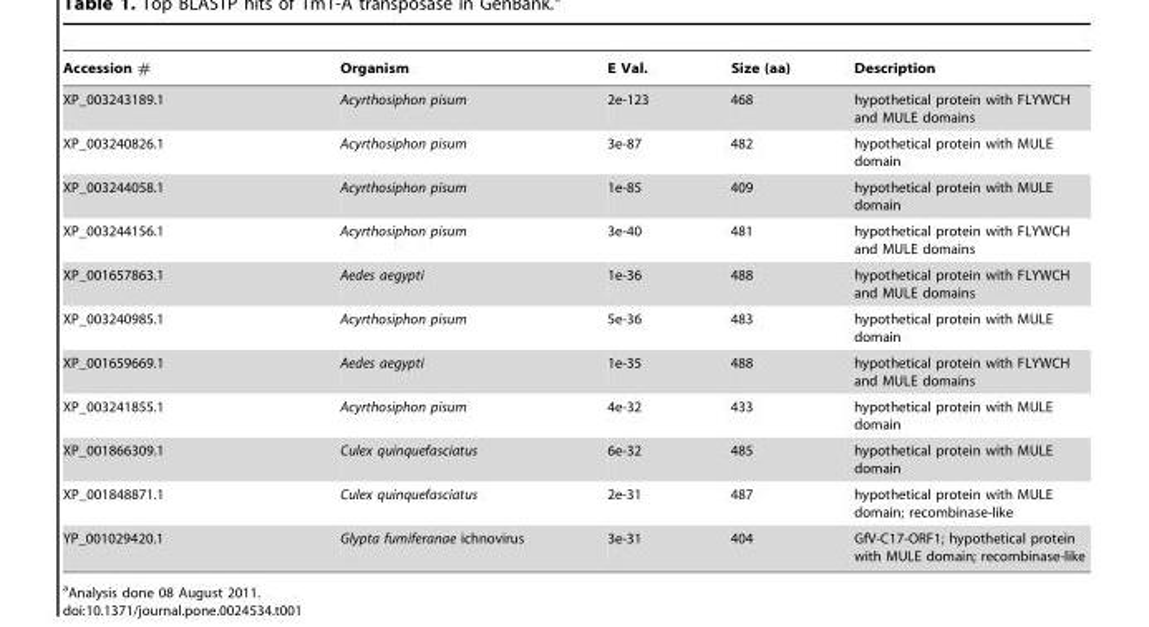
<table><thead><tr><td>Accession #</td><td>Organism</td><td>E Val.</td><td>Size (aa)</td><td>Description</td></tr></thead><tbody><tr><td>XP_003243189.1</td><td>Acyrthosiphon pisum</td><td>2e-123</td><td>468</td><td>hypothetical protein with FLYWCH and MULE domains</td></tr><tr><td>XP_003240826.1</td><td>Acyrthosiphon pisum</td><td>3e-87</td><td>482</td><td>hypothetical protein with MULE domain</td></tr><tr><td>XP_003244058.1</td><td>Acyrthosiphon pisum</td><td>1e-85</td><td>409</td><td>hypothetical protein with MULE domain</td></tr><tr><td>XP_003244156.1</td><td>Acyrthosiphon pisum</td><td>3e-40</td><td>481</td><td>hypothetical protein with FLYWCH and MULE domains</td></tr><tr><td>XP_001657863.1</td><td>Aedes aegypti</td><td>1e-36</td><td>488</td><td>hypothetical protein with FLYWCH and MULE domains</td></tr><tr><td>XP_003240985.1</td><td>Acyrthosiphon pisum</td><td>5e-36</td><td>483</td><td>hypothetical protein with MULE domain</td></tr><tr><td>XP_001659669.1</td><td>Aedes aegypti</td><td>1e-35</td><td>488</td><td>hypothetical protein with FLYWCH and MULE domains</td></tr><tr><td>XP_003241855.1</td><td>Acyrthosiphon pisum</td><td>4e-32</td><td>433</td><td>hypothetical protein with MULE domain</td></tr><tr><td>XP_001866309.1</td><td>Culex quinquefasciatus</td><td>6e-32</td><td>485</td><td>hypothetical protein with MULE domain</td></tr><tr><td>XP_001848871.1</td><td>Culex quinquefasciatus</td><td>2e-31</td><td>487</td><td>hypothetical protein with MULE domain; recombinase-like</td></tr><tr><td>YP_001029420.1</td><td>Glypta fumiferanae ichnovirus</td><td>3e-31</td><td>404</td><td>GfV-C17-ORF1; hypothetical protein with MULE domain; recombinase-like</td></tr></tbody></table>